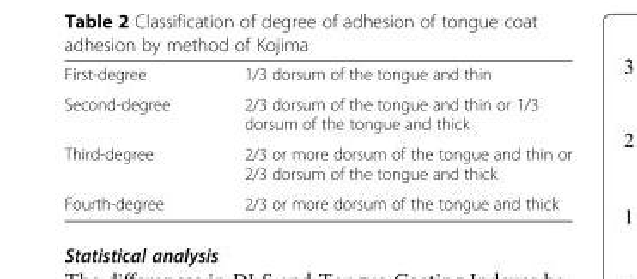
<table><tbody><tr><td>First-degree</td><td>1/3 dorsum of the tongue and thin</td></tr><tr><td>Second-degree</td><td>2/3 dorsum of the tongue and thin or 1/3 dorsum of the tongue and thick</td></tr><tr><td>Third-degree</td><td>2/3 or more dorsum of the tongue and thin or 2/3 dorsum of the tongue and thick</td></tr><tr><td>Fourth-degree</td><td>2/3 or more dorsum of the tongue and thick</td></tr></tbody></table>